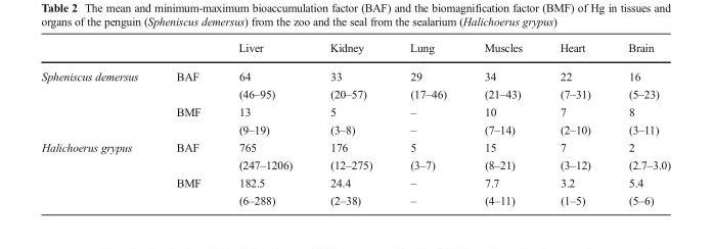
<table><thead><tr><td></td><td></td><td>Liver</td><td>Kidney</td><td>Lung</td><td>Muscles</td><td>Heart</td><td>Brain</td></tr></thead><tbody><tr><td rowspan="4">Spheniscus demersus</td><td rowspan="2">BAF</td><td>64</td><td>33</td><td>29</td><td>34</td><td>22</td><td>16</td></tr><tr><td>(46–95)</td><td>(20–57)</td><td>(17–46)</td><td>(21–43)</td><td>(7–31)</td><td>(5–23)</td></tr><tr><td rowspan="2">BMF</td><td>13</td><td>5</td><td>–</td><td>10</td><td>7</td><td>8</td></tr><tr><td>(9–19)</td><td>(3–8)</td><td>–</td><td>(7–14)</td><td>(2–10)</td><td>(3–11)</td></tr><tr><td rowspan="4">Halichoerus grypus</td><td rowspan="2">BAF</td><td>765</td><td>176</td><td>5</td><td>15</td><td>7</td><td>2</td></tr><tr><td>(247–1206)</td><td>(12–275)</td><td>(3–7)</td><td>(8–21)</td><td>(3–12)</td><td>(2.7–3.0)</td></tr><tr><td rowspan="2">BMF</td><td>182.5</td><td>24.4</td><td>–</td><td>7.7</td><td>3.2</td><td>5.4</td></tr><tr><td>(6–288)</td><td>(2–38)</td><td>–</td><td>(4–11)</td><td>(1–5)</td><td>(5–6)</td></tr></tbody></table>